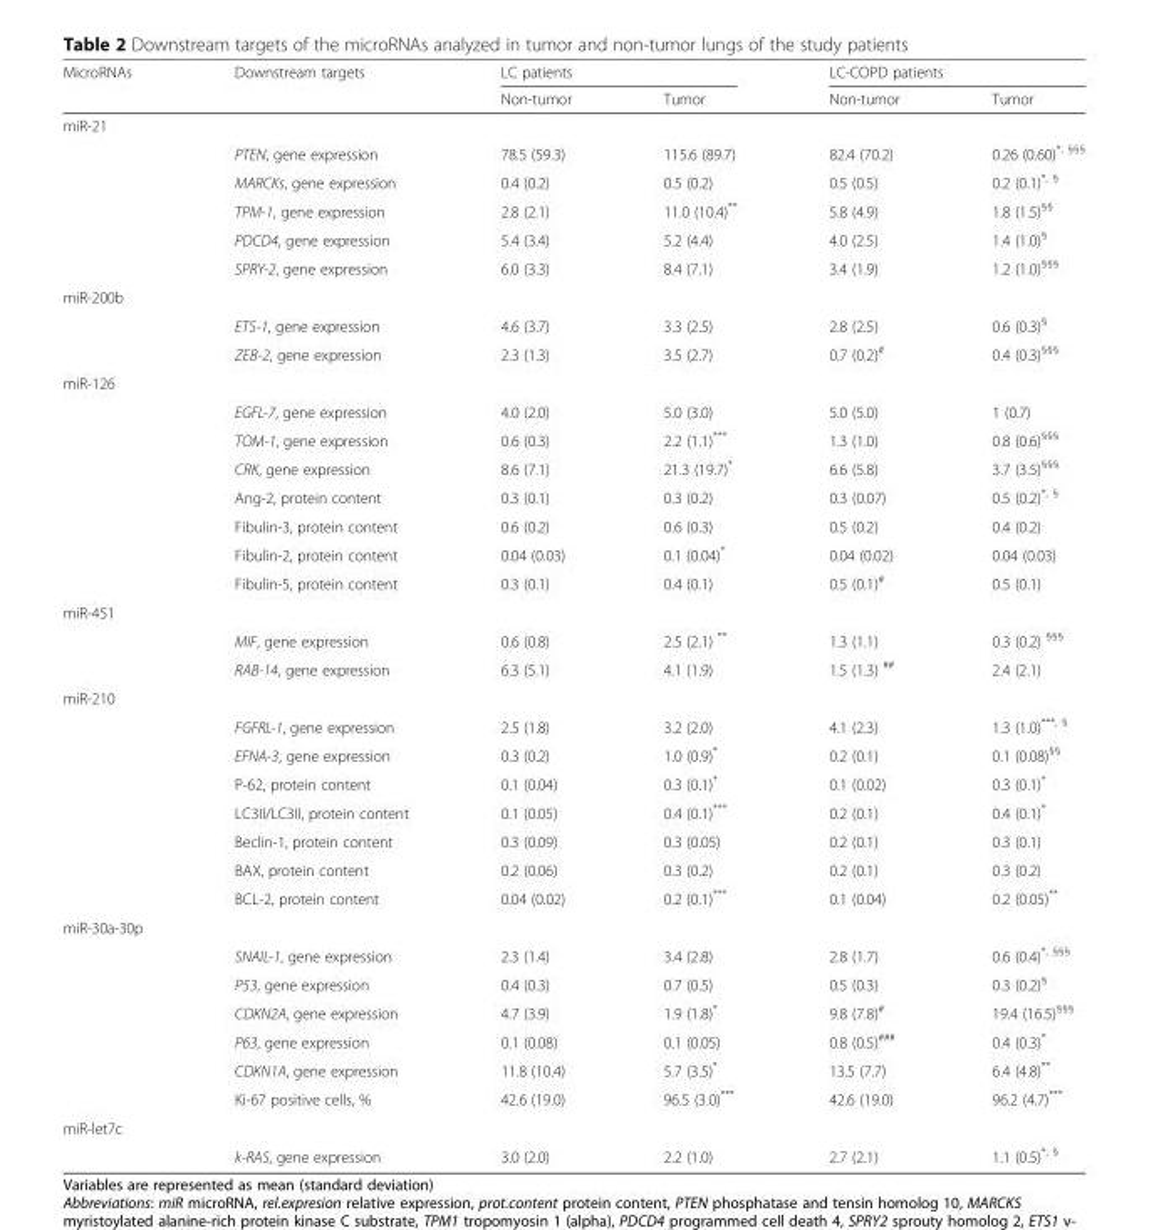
<table><thead><tr><td rowspan="2">MicroRNAs</td><td rowspan="2">Downstream targets</td><td colspan="2">LC patients</td><td colspan="2">LC-COPD patients</td></tr><tr><td>Non-tumor</td><td>Tumor</td><td>Non-tumor</td><td>Tumor</td></tr></thead><tbody><tr><td colspan="6">miR-21</td></tr><tr><td rowspan="5"></td><td>PTEN, gene expression</td><td>78.5 (59.3)</td><td>115.6 (89.7)</td><td>82.4 (70.2)</td><td>0.26 (0.60)<sup>*, §§§</sup></td></tr><tr><td>MARCKs, gene expression</td><td>0.4 (0.2)</td><td>0.5 (0.2)</td><td>0.5 (0.5)</td><td>0.2 (0.1)<sup>*, §</sup></td></tr><tr><td>TPM-1, gene expression</td><td>2.8 (2.1)</td><td>11.0 (10.4)**</td><td>5.8 (4.9)</td><td>1.8 (1.5)<sup>§§</sup></td></tr><tr><td>PDCD4, gene expression</td><td>5.4 (3.4)</td><td>5.2 (4.4)</td><td>4.0 (2.5)</td><td>1.4 (1.0)<sup>§</sup></td></tr><tr><td>SPRY-2, gene expression</td><td>6.0 (3.3)</td><td>8.4 (7.1)</td><td>3.4 (1.9)</td><td>1.2 (1.0)<sup>§§§</sup></td></tr><tr><td colspan="6">miR-200b</td></tr><tr><td rowspan="2"></td><td>ETS-1, gene expression</td><td>4.6 (3.7)</td><td>3.3 (2.5)</td><td>2.8 (2.5)</td><td>0.6 (0.3)<sup>§</sup></td></tr><tr><td>ZEB-2, gene expression</td><td>2.3 (1.3)</td><td>3.5 (2.7)</td><td>0.7 (0.2)<sup>#</sup></td><td>0.4 (0.3)<sup>§§§</sup></td></tr><tr><td colspan="6">miR-126</td></tr><tr><td rowspan="7"></td><td>EGFL-7, gene expression</td><td>4.0 (2.0)</td><td>5.0 (3.0)</td><td>5.0 (5.0)</td><td>1 (0.7)</td></tr><tr><td>TOM-1, gene expression</td><td>0.6 (0.3)</td><td>2.2 (1.1)***</td><td>1.3 (1.0)</td><td>0.8 (0.6)<sup>§§§</sup></td></tr><tr><td>CRK, gene expression</td><td>8.6 (7.1)</td><td>21.3 (19.7)*</td><td>6.6 (5.8)</td><td>3.7 (3.5)<sup>§§§</sup></td></tr><tr><td>Ang-2, protein content</td><td>0.3 (0.1)</td><td>0.3 (0.2)</td><td>0.3 (0.07)</td><td>0.5 (0.2)<sup>*, §</sup></td></tr><tr><td>Fibulin-3, protein content</td><td>0.6 (0.2)</td><td>0.6 (0.3)</td><td>0.5 (0.2)</td><td>0.4 (0.2)</td></tr><tr><td>Fibulin-2, protein content</td><td>0.04 (0.03)</td><td>0.1 (0.04)*</td><td>0.04 (0.02)</td><td>0.04 (0.03)</td></tr><tr><td>Fibulin-5, protein content</td><td>0.3 (0.1)</td><td>0.4 (0.1)</td><td>0.5 (0.1)<sup>#</sup></td><td>0.5 (0.1)</td></tr><tr><td colspan="6">miR-451</td></tr><tr><td rowspan="2"></td><td>MIF, gene expression</td><td>0.6 (0.8)</td><td>2.5 (2.1) **</td><td>1.3 (1.1)</td><td>0.3 (0.2) <sup>§§§</sup></td></tr><tr><td>RAB-14, gene expression</td><td>6.3 (5.1)</td><td>4.1 (1.9)</td><td>1.5 (1.3) <sup>##</sup></td><td>2.4 (2.1)</td></tr><tr><td colspan="6">miR-210</td></tr><tr><td rowspan="7"></td><td>FGFRL-1, gene expression</td><td>2.5 (1.8)</td><td>3.2 (2.0)</td><td>4.1 (2.3)</td><td>1.3 (1.0)<sup>***, §</sup></td></tr><tr><td>EFNA-3, gene expression</td><td>0.3 (0.2)</td><td>1.0 (0.9)*</td><td>0.2 (0.1)</td><td>0.1 (0.08)<sup>§§</sup></td></tr><tr><td>P-62, protein content</td><td>0.1 (0.04)</td><td>0.3 (0.1)*</td><td>0.1 (0.02)</td><td>0.3 (0.1)*</td></tr><tr><td>LC3II/LC3II, protein content</td><td>0.1 (0.05)</td><td>0.4 (0.1)***</td><td>0.2 (0.1)</td><td>0.4 (0.1)*</td></tr><tr><td>Beclin-1, protein content</td><td>0.3 (0.09)</td><td>0.3 (0.05)</td><td>0.2 (0.1)</td><td>0.3 (0.1)</td></tr><tr><td>BAX, protein content</td><td>0.2 (0.06)</td><td>0.3 (0.2)</td><td>0.2 (0.1)</td><td>0.3 (0.2)</td></tr><tr><td>BCL-2, protein content</td><td>0.04 (0.02)</td><td>0.2 (0.1)***</td><td>0.1 (0.04)</td><td>0.2 (0.05)**</td></tr><tr><td colspan="6">miR-30a-30p</td></tr><tr><td rowspan="6"></td><td>SNAIL-1, gene expression</td><td>2.3 (1.4)</td><td>3.4 (2.8)</td><td>2.8 (1.7)</td><td>0.6 (0.4)<sup>*, §§§</sup></td></tr><tr><td>P53, gene expression</td><td>0.4 (0.3)</td><td>0.7 (0.5)</td><td>0.5 (0.3)</td><td>0.3 (0.2)<sup>§</sup></td></tr><tr><td>CDKN2A, gene expression</td><td>4.7 (3.9)</td><td>1.9 (1.8)*</td><td>9.8 (7.8)<sup>#</sup></td><td>19.4 (16.5)<sup>§§§</sup></td></tr><tr><td>P63, gene expression</td><td>0.1 (0.08)</td><td>0.1 (0.05)</td><td>0.8 (0.5)<sup>###</sup></td><td>0.4 (0.3)*</td></tr><tr><td>CDKN1A, gene expression</td><td>11.8 (10.4)</td><td>5.7 (3.5)*</td><td>13.5 (7.7)</td><td>6.4 (4.8)**</td></tr><tr><td>Ki-67 positive cells, %</td><td>42.6 (19.0)</td><td>96.5 (3.0)***</td><td>42.6 (19.0)</td><td>96.2 (4.7)***</td></tr><tr><td colspan="6">miR-let7c</td></tr><tr><td></td><td>k-RAS, gene expression</td><td>3.0 (2.0)</td><td>2.2 (1.0)</td><td>2.7 (2.1)</td><td>1.1 (0.5)<sup>*, §</sup></td></tr></tbody></table>